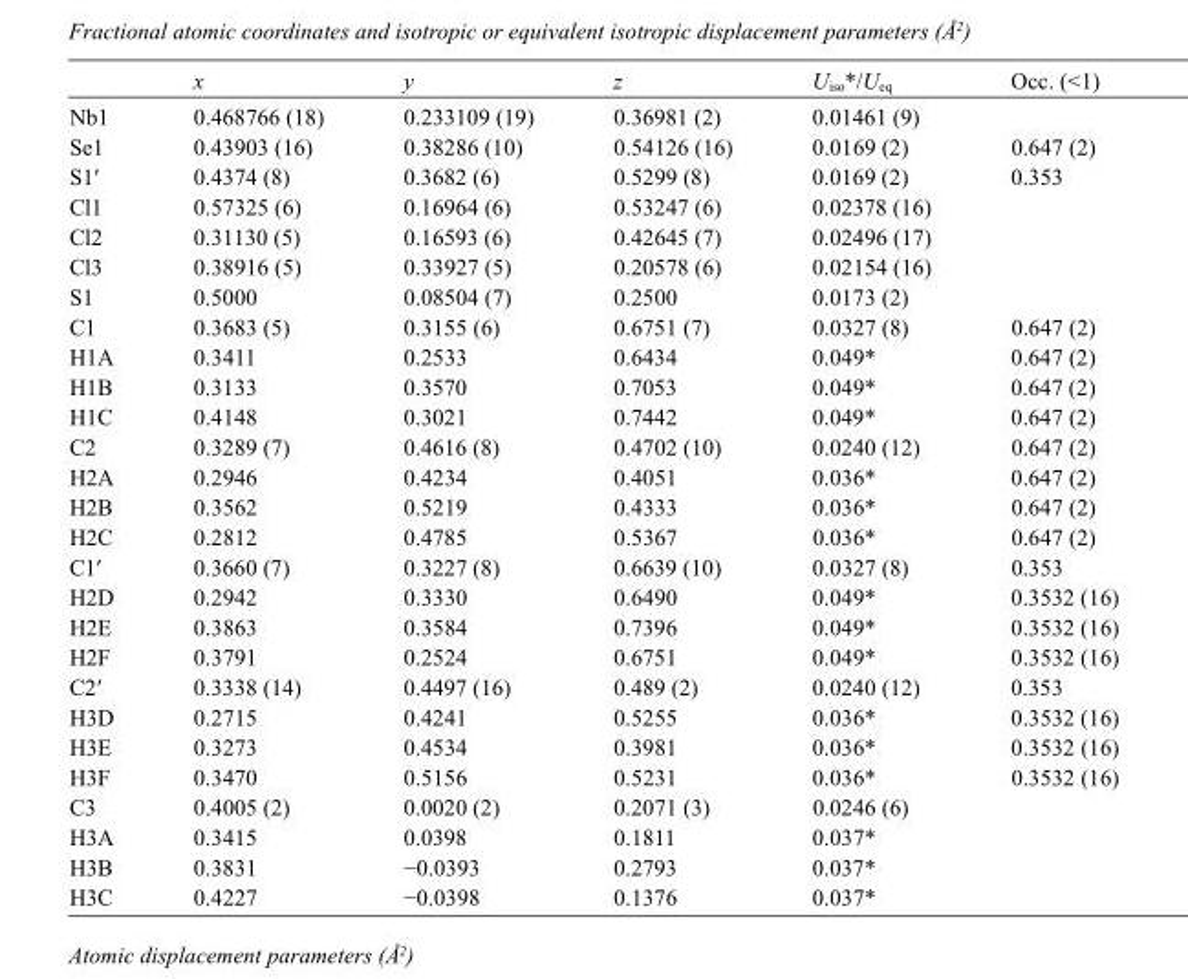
<table><thead><tr><td></td><td>x</td><td>y</td><td>z</td><td>U<sub>iso</sub>*/U<sub>eq</sub></td><td>Occ. (&lt;1)</td></tr></thead><tbody><tr><td>Nb1</td><td>0.468766 (18)</td><td>0.233109 (19)</td><td>0.36981 (2)</td><td>0.01461 (9)</td><td></td></tr><tr><td>Se1</td><td>0.43903 (16)</td><td>0.38286 (10)</td><td>0.54126 (16)</td><td>0.0169 (2)</td><td>0.647 (2)</td></tr><tr><td>S1′</td><td>0.4374 (8)</td><td>0.3682 (6)</td><td>0.5299 (8)</td><td>0.0169 (2)</td><td>0.353</td></tr><tr><td>Cl1</td><td>0.57325 (6)</td><td>0.16964 (6)</td><td>0.53247 (6)</td><td>0.02378 (16)</td><td></td></tr><tr><td>Cl2</td><td>0.31130 (5)</td><td>0.16593 (6)</td><td>0.42645 (7)</td><td>0.02496 (17)</td><td></td></tr><tr><td>Cl3</td><td>0.38916 (5)</td><td>0.33927 (5)</td><td>0.20578 (6)</td><td>0.02154 (16)</td><td></td></tr><tr><td>S1</td><td>0.5000</td><td>0.08504 (7)</td><td>0.2500</td><td>0.0173 (2)</td><td></td></tr><tr><td>C1</td><td>0.3683 (5)</td><td>0.3155 (6)</td><td>0.6751 (7)</td><td>0.0327 (8)</td><td>0.647 (2)</td></tr><tr><td>H1A</td><td>0.3411</td><td>0.2533</td><td>0.6434</td><td>0.049*</td><td>0.647 (2)</td></tr><tr><td>H1B</td><td>0.3133</td><td>0.3570</td><td>0.7053</td><td>0.049*</td><td>0.647 (2)</td></tr><tr><td>H1C</td><td>0.4148</td><td>0.3021</td><td>0.7442</td><td>0.049*</td><td>0.647 (2)</td></tr><tr><td>C2</td><td>0.3289 (7)</td><td>0.4616 (8)</td><td>0.4702 (10)</td><td>0.0240 (12)</td><td>0.647 (2)</td></tr><tr><td>H2A</td><td>0.2946</td><td>0.4234</td><td>0.4051</td><td>0.036*</td><td>0.647 (2)</td></tr><tr><td>H2B</td><td>0.3562</td><td>0.5219</td><td>0.4333</td><td>0.036*</td><td>0.647 (2)</td></tr><tr><td>H2C</td><td>0.2812</td><td>0.4785</td><td>0.5367</td><td>0.036*</td><td>0.647 (2)</td></tr><tr><td>C1′</td><td>0.3660 (7)</td><td>0.3227 (8)</td><td>0.6639 (10)</td><td>0.0327 (8)</td><td>0.353</td></tr><tr><td>H2D</td><td>0.2942</td><td>0.3330</td><td>0.6490</td><td>0.049*</td><td>0.3532 (16)</td></tr><tr><td>H2E</td><td>0.3863</td><td>0.3584</td><td>0.7396</td><td>0.049*</td><td>0.3532 (16)</td></tr><tr><td>H2F</td><td>0.3791</td><td>0.2524</td><td>0.6751</td><td>0.049*</td><td>0.3532 (16)</td></tr><tr><td>C2′</td><td>0.3338 (14)</td><td>0.4497 (16)</td><td>0.489 (2)</td><td>0.0240 (12)</td><td>0.353</td></tr><tr><td>H3D</td><td>0.2715</td><td>0.4241</td><td>0.5255</td><td>0.036*</td><td>0.3532 (16)</td></tr><tr><td>H3E</td><td>0.3273</td><td>0.4534</td><td>0.3981</td><td>0.036*</td><td>0.3532 (16)</td></tr><tr><td>H3F</td><td>0.3470</td><td>0.5156</td><td>0.5231</td><td>0.036*</td><td>0.3532 (16)</td></tr><tr><td>C3</td><td>0.4005 (2)</td><td>0.0020 (2)</td><td>0.2071 (3)</td><td>0.0246 (6)</td><td></td></tr><tr><td>H3A</td><td>0.3415</td><td>0.0398</td><td>0.1811</td><td>0.037*</td><td></td></tr><tr><td>H3B</td><td>0.3831</td><td>−0.0393</td><td>0.2793</td><td>0.037*</td><td></td></tr><tr><td>H3C</td><td>0.4227</td><td>−0.0398</td><td>0.1376</td><td>0.037*</td><td></td></tr></tbody></table>